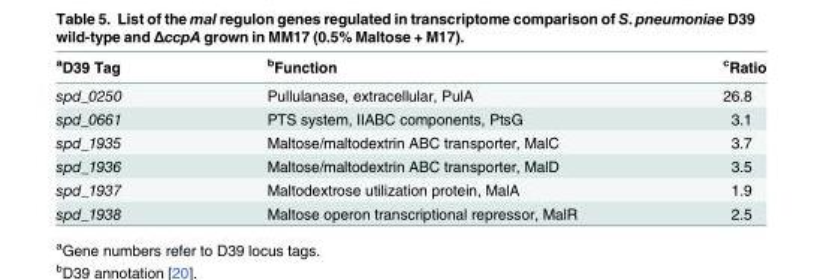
<table><thead><tr><td><sup>a</sup>D39 Tag</td><td><sup>b</sup>Function</td><td><sup>c</sup>Ratio</td></tr></thead><tbody><tr><td>spd_0250</td><td>Pullulanase, extracellular, PulA</td><td>26.8</td></tr><tr><td>spd_0661</td><td>PTS system, IIABC components, PtsG</td><td>3.1</td></tr><tr><td>spd_1935</td><td>Maltose/maltodextrin ABC transporter, MalC</td><td>3.7</td></tr><tr><td>spd_1936</td><td>Maltose/maltodextrin ABC transporter, MalD</td><td>3.5</td></tr><tr><td>spd_1937</td><td>Maltodextrose utilization protein, MalA</td><td>1.9</td></tr><tr><td>spd_1938</td><td>Maltose operon transcriptional repressor, MalR</td><td>2.5</td></tr></tbody></table>